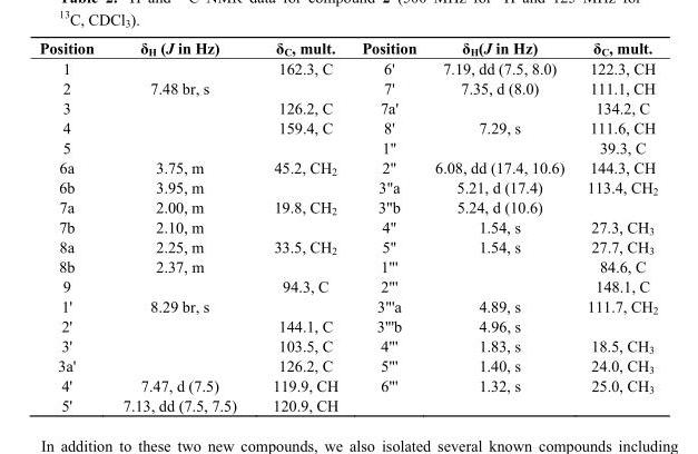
<table><thead><tr><td>Position</td><td>δ<sub>H</sub> (J in Hz)</td><td>δ<sub>C</sub>, mult.</td><td>Position</td><td>δ<sub>H</sub>(J in Hz)</td><td>δ<sub>C</sub>, mult.</td></tr></thead><tbody><tr><td>1</td><td></td><td>162.3, C</td><td>6&#x27;</td><td>7.19, dd (7.5, 8.0)</td><td>122.3, CH</td></tr><tr><td>2</td><td>7.48 br, s</td><td></td><td>7&#x27;</td><td>7.35, d (8.0)</td><td>111.1, CH</td></tr><tr><td>3</td><td></td><td>126.2, C</td><td>7a&#x27;</td><td></td><td>134.2, C</td></tr><tr><td>4</td><td></td><td>159.4, C</td><td>8&#x27;</td><td>7.29, s</td><td>111.6, CH</td></tr><tr><td>5</td><td></td><td></td><td>1&quot;</td><td></td><td>39.3, C</td></tr><tr><td>6a</td><td>3.75, m</td><td>45.2, CH<sub>2</sub></td><td>2&quot;</td><td>6.08, dd (17.4, 10.6)</td><td>144.3, CH</td></tr><tr><td>6b</td><td>3.95, m</td><td></td><td>3&quot;a</td><td>5.21, d (17.4)</td><td>113.4, CH<sub>2</sub></td></tr><tr><td>7a</td><td>2.00, m</td><td>19.8, CH<sub>2</sub></td><td>3&quot;b</td><td>5.24, d (10.6)</td><td></td></tr><tr><td>7b</td><td>2.10, m</td><td></td><td>4&quot;</td><td>1.54, s</td><td>27.3, CH<sub>3</sub></td></tr><tr><td>8a</td><td>2.25, m</td><td>33.5, CH<sub>2</sub></td><td>5&quot;</td><td>1.54, s</td><td>27.7, CH<sub>3</sub></td></tr><tr><td>8b</td><td>2.37, m</td><td></td><td>1&quot;&#x27;</td><td></td><td>84.6, C</td></tr><tr><td>9</td><td></td><td>94.3, C</td><td>2&quot;&#x27;</td><td></td><td>148.1, C</td></tr><tr><td>1&#x27;</td><td>8.29 br, s</td><td></td><td>3&quot;&#x27;a</td><td>4.89, s</td><td>111.7, CH<sub>2</sub></td></tr><tr><td>2&#x27;</td><td></td><td>144.1, C</td><td>3&quot;&#x27;b</td><td>4.96, s</td><td></td></tr><tr><td>3&#x27;</td><td></td><td>103.5, C</td><td>4&quot;&#x27;</td><td>1.83, s</td><td>18.5, CH<sub>3</sub></td></tr><tr><td>3a&#x27;</td><td></td><td>126.2, C</td><td>5&quot;&#x27;</td><td>1.40, s</td><td>24.0, CH<sub>3</sub></td></tr><tr><td>4&#x27;</td><td>7.47, d (7.5)</td><td>119.9, CH</td><td>6&quot;&#x27;</td><td>1.32, s</td><td>25.0, CH<sub>3</sub></td></tr><tr><td>5&#x27;</td><td>7.13, dd (7.5, 7.5)</td><td>120.9, CH</td><td></td><td></td><td></td></tr></tbody></table>